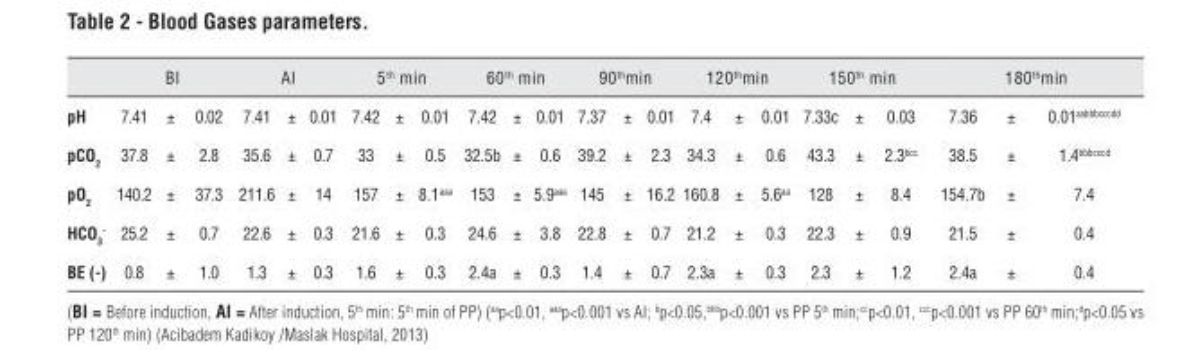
<table><thead><tr><td rowspan="2">pH</td><td colspan="3">BI</td><td colspan="3">AI</td><td colspan="3">5<sup>th</sup> min</td><td colspan="3">60<sup>th</sup> min</td><td colspan="3">90<sup>th</sup>min</td><td colspan="3">120<sup>th</sup>min</td><td colspan="3">150<sup>th</sup> min</td><td colspan="3">180<sup>th</sup>min</td></tr><tr><td>7.41</td><td>±</td><td>0.02</td><td>7.41</td><td>±</td><td>0.01</td><td>7.42</td><td>±</td><td>0.01</td><td>7.42</td><td>±</td><td>0.01</td><td>7.37</td><td>±</td><td>0.01</td><td>7.4</td><td>±</td><td>0.01</td><td>7.33c</td><td>±</td><td>0.03</td><td>7.36</td><td>±</td><td>0.01<sup>aabbbcccdd</sup></td></tr></thead><tbody><tr><td>pCO<sub>2</sub></td><td>37.8</td><td>±</td><td>2.8</td><td>35.6</td><td>±</td><td>0.7</td><td>33</td><td>±</td><td>0.5</td><td>32.5b</td><td>±</td><td>0.6</td><td>39.2</td><td>±</td><td>2.3</td><td>34.3</td><td>±</td><td>0.6</td><td>43.3</td><td>±</td><td>2.3<sup>bcc</sup></td><td>38.5</td><td>±</td><td>1.4<sup>bbbcccd</sup></td></tr><tr><td>pO<sub>2</sub></td><td>140.2</td><td>±</td><td>37.3</td><td>211.6</td><td>±</td><td>14</td><td>157</td><td>±</td><td>8.1<sup>aaa</sup></td><td>153</td><td>±</td><td>5.9<sup>aaa</sup></td><td>145</td><td>±</td><td>16.2</td><td>160.8</td><td>±</td><td>5.6<sup>aa</sup></td><td>128</td><td>±</td><td>8.4</td><td>154.7b</td><td>±</td><td>7.4</td></tr><tr><td>HCO<sub>3</sub> <sup>-</sup></td><td>25.2</td><td>±</td><td>0.7</td><td>22.6</td><td>±</td><td>0.3</td><td>21.6</td><td>±</td><td>0.3</td><td>24.6</td><td>±</td><td>3.8</td><td>22.8</td><td>±</td><td>0.7</td><td>21.2</td><td>±</td><td>0.3</td><td>22.3</td><td>±</td><td>0.9</td><td>21.5</td><td>±</td><td>0.4</td></tr><tr><td>bE (-)</td><td>0.8</td><td>±</td><td>1.0</td><td>1.3</td><td>±</td><td>0.3</td><td>1.6</td><td>±</td><td>0.3</td><td>2.4a</td><td>±</td><td>0.3</td><td>1.4</td><td>±</td><td>0.7</td><td>2.3a</td><td>±</td><td>0.3</td><td>2.3</td><td>±</td><td>1.2</td><td>2.4a</td><td>±</td><td>0.4</td></tr></tbody></table>